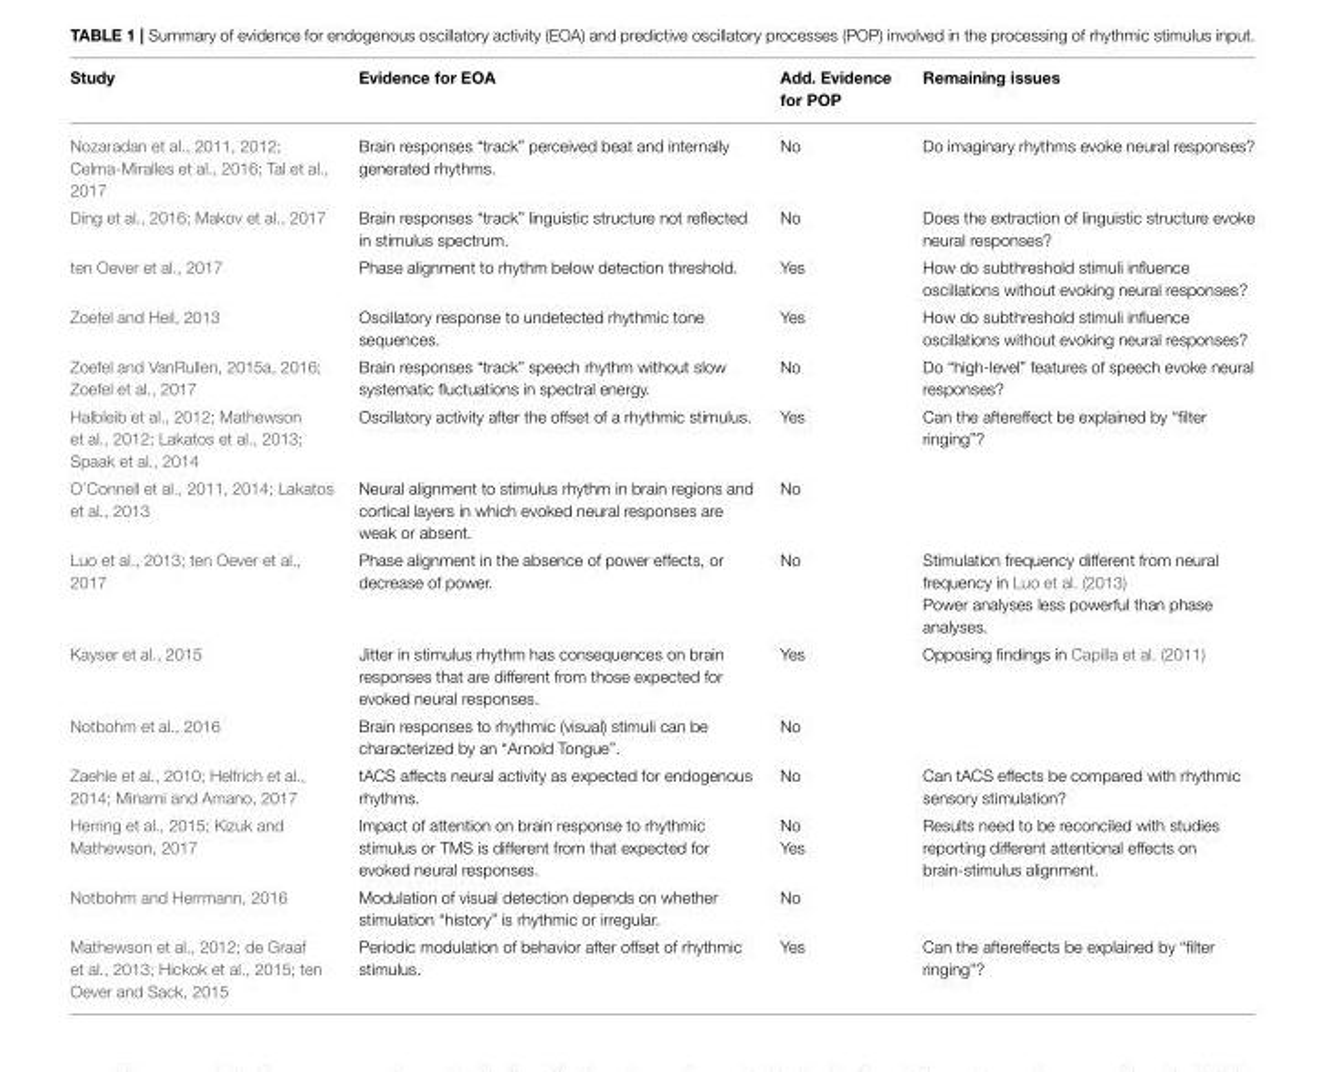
<table><thead><tr><td>Study</td><td>Evidence for EOA</td><td>Add. Evidence for POP</td><td>Remaining issues</td></tr></thead><tbody><tr><td>Nozaradan et al., 2011, 2012; Celma-Miralles et al., 2016; Tal et al., 2017</td><td>Brain responses “track” perceived beat and internally generated rhythms.</td><td>No</td><td>Do imaginary rhythms evoke neural responses?</td></tr><tr><td>Ding et al., 2016; Makov et al., 2017</td><td>Brain responses “track” linguistic structure not reflected in stimulus spectrum.</td><td>No</td><td>Does the extraction of linguistic structure evoke neural responses?</td></tr><tr><td>ten Oever et al., 2017</td><td>Phase alignment to rhythm below detection threshold.</td><td>Yes</td><td>How do subthreshold stimuli influence oscillations without evoking neural responses?</td></tr><tr><td>Zoefel and Heil, 2013</td><td>Oscillatory response to undetected rhythmic tone sequences.</td><td>Yes</td><td>How do subthreshold stimuli influence oscillations without evoking neural responses?</td></tr><tr><td>Zoefel and VanRullen, 2015a, 2016; Zoefel et al., 2017</td><td>Brain responses “track” speech rhythm without slow systematic fluctuations in spectral energy.</td><td>No</td><td>Do “high-level” features of speech evoke neural responses?</td></tr><tr><td>Halbleib et al., 2012; Mathewson et al., 2012; Lakatos et al., 2013; Spaak et al., 2014</td><td>Oscillatory activity after the offset of a rhythmic stimulus.</td><td>Yes</td><td>Can the aftereffect be explained by “filter ringing”?</td></tr><tr><td>O’Connell et al., 2011, 2014; Lakatos et al., 2013</td><td>Neural alignment to stimulus rhythm in brain regions and cortical layers in which evoked neural responses are weak or absent.</td><td>No</td><td></td></tr><tr><td>Luo et al., 2013; ten Oever et al., 2017</td><td>Phase alignment in the absence of power effects, or decrease of power.</td><td>No</td><td>Stimulation frequency different from neural frequency in Luo et al. (2013) Power analyses less powerful than phase analyses.</td></tr><tr><td>Kayser et al., 2015</td><td>Jitter in stimulus rhythm has consequences on brain responses that are different from those expected for evoked neural responses.</td><td>Yes</td><td>Opposing findings in Capilla et al. (2011)</td></tr><tr><td>Notbohm et al., 2016</td><td>Brain responses to rhythmic (visual) stimuli can be characterized by an “Arnold Tongue”.</td><td>No</td><td></td></tr><tr><td>Zaehle et al., 2010; Helfrich et al., 2014; Minami and Amano, 2017</td><td>tACS affects neural activity as expected for endogenous rhythms.</td><td>No</td><td>Can tACS effects be compared with rhythmic sensory stimulation?</td></tr><tr><td>Herring et al., 2015; Kizuk and Mathewson, 2017</td><td>Impact of attention on brain response to rhythmic stimulus or TMS is different from that expected for evoked neural responses.</td><td>No Yes</td><td>Results need to be reconciled with studies reporting different attentional effects on brain-stimulus alignment.</td></tr><tr><td>Notbohm and Herrmann, 2016</td><td>Modulation of visual detection depends on whether stimulation “history” is rhythmic or irregular.</td><td>No</td><td></td></tr><tr><td>Mathewson et al., 2012; de Graaf et al., 2013; Hickok et al., 2015; ten Oever and Sack, 2015</td><td>Periodic modulation of behavior after offset of rhythmic stimulus.</td><td>Yes</td><td>Can the aftereffects be explained by “filter ringing”?</td></tr></tbody></table>